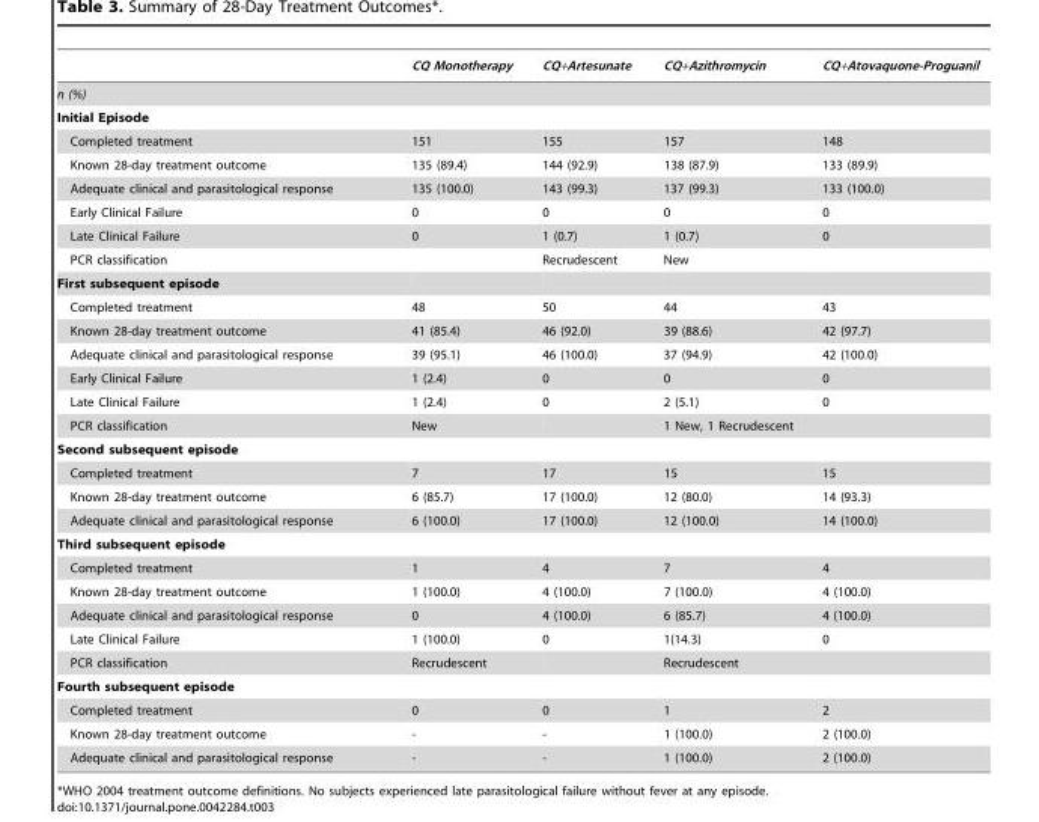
<table><thead><tr><td></td><td>CQ Monotherapy</td><td>CQ+Artesunate</td><td>CQ+Azithromycin</td><td>CQ+Atovaquone-Proguanil</td></tr></thead><tbody><tr><td colspan="5">n (%)</td></tr><tr><td colspan="5">Initial Episode</td></tr><tr><td>Completed treatment</td><td>151</td><td>155</td><td>157</td><td>148</td></tr><tr><td>Known 28-day treatment outcome</td><td>135 (89.4)</td><td>144 (92.9)</td><td>138 (87.9)</td><td>133 (89.9)</td></tr><tr><td>Adequate clinical and parasitological response</td><td>135 (100.0)</td><td>143 (99.3)</td><td>137 (99.3)</td><td>133 (100.0)</td></tr><tr><td>Early Clinical Failure</td><td>0</td><td>0</td><td>0</td><td>0</td></tr><tr><td>Late Clinical Failure</td><td>0</td><td>1 (0.7)</td><td>1 (0.7)</td><td>0</td></tr><tr><td>PCR classification</td><td></td><td>Recrudescent</td><td>New</td><td></td></tr><tr><td colspan="5">First subsequent episode</td></tr><tr><td>Completed treatment</td><td>48</td><td>50</td><td>44</td><td>43</td></tr><tr><td>Known 28-day treatment outcome</td><td>41 (85.4)</td><td>46 (92.0)</td><td>39 (88.6)</td><td>42 (97.7)</td></tr><tr><td>Adequate clinical and parasitological response</td><td>39 (95.1)</td><td>46 (100.0)</td><td>37 (94.9)</td><td>42 (100.0)</td></tr><tr><td>Early Clinical Failure</td><td>1 (2.4)</td><td>0</td><td>0</td><td>0</td></tr><tr><td>Late Clinical Failure</td><td>1 (2.4)</td><td>0</td><td>2 (5.1)</td><td>0</td></tr><tr><td>PCR classification</td><td>New</td><td></td><td>1 New, 1 Recrudescent</td><td></td></tr><tr><td colspan="5">Second subsequent episode</td></tr><tr><td>Completed treatment</td><td>7</td><td>17</td><td>15</td><td>15</td></tr><tr><td>Known 28-day treatment outcome</td><td>6 (85.7)</td><td>17 (100.0)</td><td>12 (80.0)</td><td>14 (93.3)</td></tr><tr><td>Adequate clinical and parasitological response</td><td>6 (100.0)</td><td>17 (100.0)</td><td>12 (100.0)</td><td>14 (100.0)</td></tr><tr><td colspan="5">Third subsequent episode</td></tr><tr><td>Completed treatment</td><td>1</td><td>4</td><td>7</td><td>4</td></tr><tr><td>Known 28-day treatment outcome</td><td>1 (100.0)</td><td>4 (100.0)</td><td>7 (100.0)</td><td>4 (100.0)</td></tr><tr><td>Adequate clinical and parasitological response</td><td>0</td><td>4 (100.0)</td><td>6 (85.7)</td><td>4 (100.0)</td></tr><tr><td>Late Clinical Failure</td><td>1 (100.0)</td><td>0</td><td>1(14.3)</td><td>0</td></tr><tr><td>PCR classification</td><td>Recrudescent</td><td></td><td>Recrudescent</td><td></td></tr><tr><td colspan="5">Fourth subsequent episode</td></tr><tr><td>Completed treatment</td><td>0</td><td>0</td><td>1</td><td>2</td></tr><tr><td>Known 28-day treatment outcome</td><td>-</td><td>-</td><td>1 (100.0)</td><td>2 (100.0)</td></tr><tr><td>Adequate clinical and parasitological response</td><td>-</td><td>-</td><td>1 (100.0)</td><td>2 (100.0)</td></tr></tbody></table>